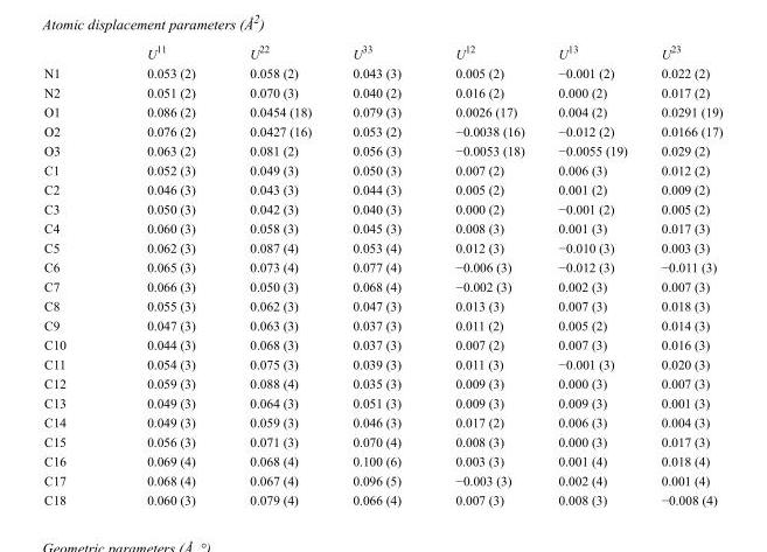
<table><thead><tr><td></td><td>U<sup>11</sup></td><td>U<sup>22</sup></td><td>U<sup>33</sup></td><td>U<sup>12</sup></td><td>U<sup>13</sup></td><td>U<sup>23</sup></td></tr></thead><tbody><tr><td>N1</td><td>0.053 (2)</td><td>0.058 (2)</td><td>0.043 (3)</td><td>0.005 (2)</td><td>−0.001 (2)</td><td>0.022 (2)</td></tr><tr><td>N2</td><td>0.051 (2)</td><td>0.070 (3)</td><td>0.040 (2)</td><td>0.016 (2)</td><td>0.000 (2)</td><td>0.017 (2)</td></tr><tr><td>O1</td><td>0.086 (2)</td><td>0.0454 (18)</td><td>0.079 (3)</td><td>0.0026 (17)</td><td>0.004 (2)</td><td>0.0291 (19)</td></tr><tr><td>O2</td><td>0.076 (2)</td><td>0.0427 (16)</td><td>0.053 (2)</td><td>−0.0038 (16)</td><td>−0.012 (2)</td><td>0.0166 (17)</td></tr><tr><td>O3</td><td>0.063 (2)</td><td>0.081 (2)</td><td>0.056 (3)</td><td>−0.0053 (18)</td><td>−0.0055 (19)</td><td>0.029 (2)</td></tr><tr><td>C1</td><td>0.052 (3)</td><td>0.049 (3)</td><td>0.050 (3)</td><td>0.007 (2)</td><td>0.006 (3)</td><td>0.012 (2)</td></tr><tr><td>C2</td><td>0.046 (3)</td><td>0.043 (3)</td><td>0.044 (3)</td><td>0.005 (2)</td><td>0.001 (2)</td><td>0.009 (2)</td></tr><tr><td>C3</td><td>0.050 (3)</td><td>0.042 (3)</td><td>0.040 (3)</td><td>0.000 (2)</td><td>−0.001 (2)</td><td>0.005 (2)</td></tr><tr><td>C4</td><td>0.060 (3)</td><td>0.058 (3)</td><td>0.045 (3)</td><td>0.008 (3)</td><td>0.001 (3)</td><td>0.017 (3)</td></tr><tr><td>C5</td><td>0.062 (3)</td><td>0.087 (4)</td><td>0.053 (4)</td><td>0.012 (3)</td><td>−0.010 (3)</td><td>0.003 (3)</td></tr><tr><td>C6</td><td>0.065 (3)</td><td>0.073 (4)</td><td>0.077 (4)</td><td>−0.006 (3)</td><td>−0.012 (3)</td><td>−0.011 (3)</td></tr><tr><td>C7</td><td>0.066 (3)</td><td>0.050 (3)</td><td>0.068 (4)</td><td>−0.002 (3)</td><td>0.002 (3)</td><td>0.007 (3)</td></tr><tr><td>C8</td><td>0.055 (3)</td><td>0.062 (3)</td><td>0.047 (3)</td><td>0.013 (3)</td><td>0.007 (3)</td><td>0.018 (3)</td></tr><tr><td>C9</td><td>0.047 (3)</td><td>0.063 (3)</td><td>0.037 (3)</td><td>0.011 (2)</td><td>0.005 (2)</td><td>0.014 (3)</td></tr><tr><td>C10</td><td>0.044 (3)</td><td>0.068 (3)</td><td>0.037 (3)</td><td>0.007 (2)</td><td>0.007 (3)</td><td>0.016 (3)</td></tr><tr><td>C11</td><td>0.054 (3)</td><td>0.075 (3)</td><td>0.039 (3)</td><td>0.011 (3)</td><td>−0.001 (3)</td><td>0.020 (3)</td></tr><tr><td>C12</td><td>0.059 (3)</td><td>0.088 (4)</td><td>0.035 (3)</td><td>0.009 (3)</td><td>0.000 (3)</td><td>0.007 (3)</td></tr><tr><td>C13</td><td>0.049 (3)</td><td>0.064 (3)</td><td>0.051 (3)</td><td>0.009 (3)</td><td>0.009 (3)</td><td>0.001 (3)</td></tr><tr><td>C14</td><td>0.049 (3)</td><td>0.059 (3)</td><td>0.046 (3)</td><td>0.017 (2)</td><td>0.006 (3)</td><td>0.004 (3)</td></tr><tr><td>C15</td><td>0.056 (3)</td><td>0.071 (3)</td><td>0.070 (4)</td><td>0.008 (3)</td><td>0.000 (3)</td><td>0.017 (3)</td></tr><tr><td>C16</td><td>0.069 (4)</td><td>0.068 (4)</td><td>0.100 (6)</td><td>0.003 (3)</td><td>0.001 (4)</td><td>0.018 (4)</td></tr><tr><td>C17</td><td>0.068 (4)</td><td>0.067 (4)</td><td>0.096 (5)</td><td>−0.003 (3)</td><td>0.002 (4)</td><td>0.001 (4)</td></tr><tr><td>C18</td><td>0.060 (3)</td><td>0.079 (4)</td><td>0.066 (4)</td><td>0.007 (3)</td><td>0.008 (3)</td><td>−0.008 (4)</td></tr></tbody></table>